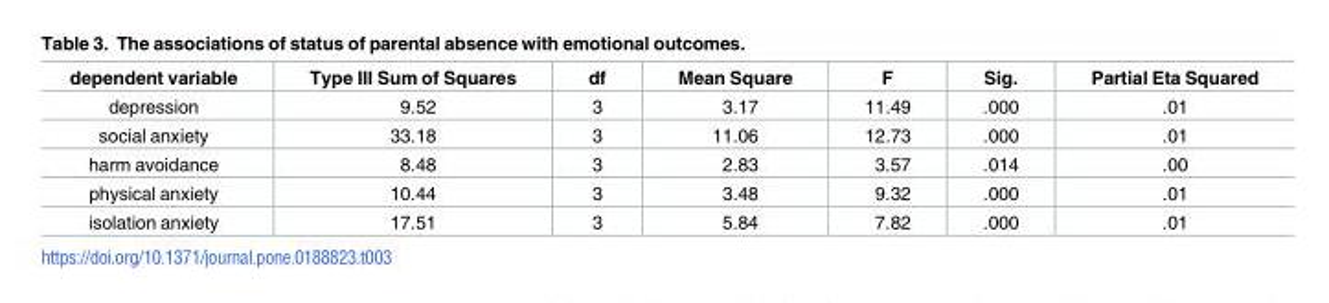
<table><thead><tr><td>dependent variable</td><td>Type III Sum of Squares</td><td>df</td><td>Mean Square</td><td>F</td><td>Sig.</td><td>Partial Eta Squared</td></tr></thead><tbody><tr><td>depression</td><td>9.52</td><td>3</td><td>3.17</td><td>11.49</td><td>.000</td><td>.01</td></tr><tr><td>social anxiety</td><td>33.18</td><td>3</td><td>11.06</td><td>12.73</td><td>.000</td><td>.01</td></tr><tr><td>harm avoidance</td><td>8.48</td><td>3</td><td>2.83</td><td>3.57</td><td>.014</td><td>.00</td></tr><tr><td>physical anxiety</td><td>10.44</td><td>3</td><td>3.48</td><td>9.32</td><td>.000</td><td>.01</td></tr><tr><td>isolation anxiety</td><td>17.51</td><td>3</td><td>5.84</td><td>7.82</td><td>.000</td><td>.01</td></tr></tbody></table>